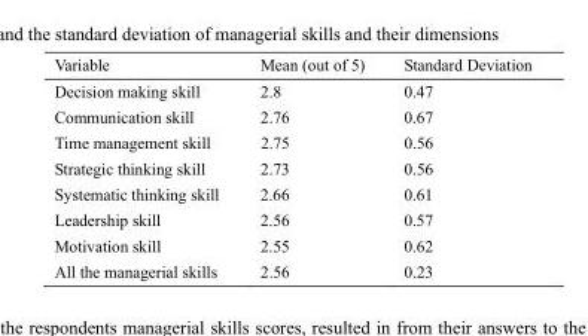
<table><thead><tr><td>Variable</td><td>Mean (out of 5)</td><td>Standard Deviation</td></tr></thead><tbody><tr><td>Decision making skill</td><td>2.8</td><td>0.47</td></tr><tr><td>Communication skill</td><td>2.76</td><td>0.67</td></tr><tr><td>Time management skill</td><td>2.75</td><td>0.56</td></tr><tr><td>Strategic thinking skill</td><td>2.73</td><td>0.56</td></tr><tr><td>Systematic thinking skill</td><td>2.66</td><td>0.61</td></tr><tr><td>Leadership skill</td><td>2.56</td><td>0.57</td></tr><tr><td>Motivation skill</td><td>2.55</td><td>0.62</td></tr><tr><td>All the managerial skills</td><td>2.56</td><td>0.23</td></tr></tbody></table>